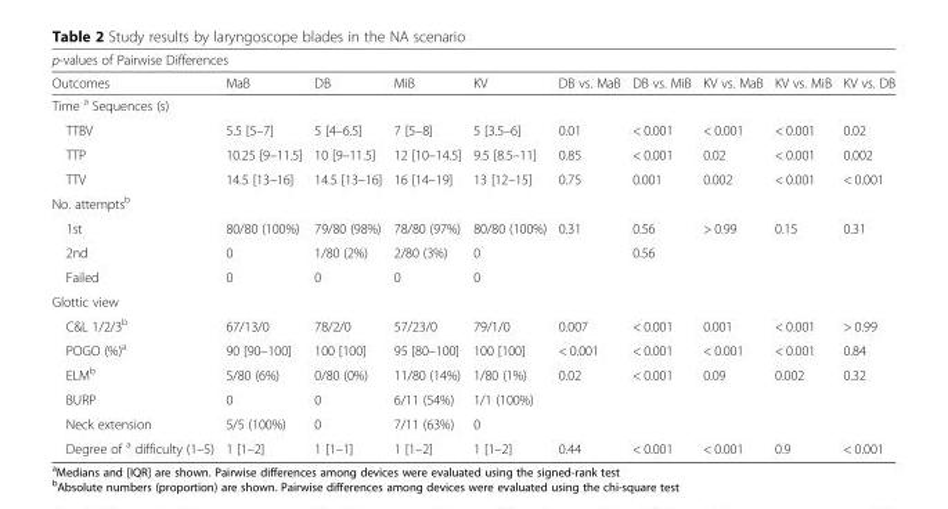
<table><thead><tr><td colspan="10">p-values of Pairwise Differences</td></tr><tr><td>Outcomes</td><td>MaB</td><td>DB</td><td>MiB</td><td>KV</td><td>DB vs. MaB</td><td>DB vs. MiB</td><td>KV vs. MaB</td><td>KV vs. MiB</td><td>KV vs. DB</td></tr></thead><tbody><tr><td colspan="10">Time <sup>a</sup> Sequences (s)</td></tr><tr><td>TTBV</td><td>5.5 [5–7]</td><td>5 [4–6.5]</td><td>7 [5–8]</td><td>5 [3.5–6]</td><td>0.01</td><td>&lt; 0.001</td><td>&lt; 0.001</td><td>&lt; 0.001</td><td>0.02</td></tr><tr><td>TTP</td><td>10.25 [9–11.5]</td><td>10 [9–11.5]</td><td>12 [10–14.5]</td><td>9.5 [8.5–11]</td><td>0.85</td><td>&lt; 0.001</td><td>0.02</td><td>&lt; 0.001</td><td>0.002</td></tr><tr><td>TTV</td><td>14.5 [13–16]</td><td>14.5 [13–16]</td><td>16 [14–19]</td><td>13 [12–15]</td><td>0.75</td><td>0.001</td><td>0.002</td><td>&lt; 0.001</td><td>&lt; 0.001</td></tr><tr><td colspan="10">No. attempts<sup>b</sup></td></tr><tr><td>1st</td><td>80/80 (100%)</td><td>79/80 (98%)</td><td>78/80 (97%)</td><td>80/80 (100%)</td><td>0.31</td><td>0.56</td><td>&gt; 0.99</td><td>0.15</td><td>0.31</td></tr><tr><td>2nd</td><td>0</td><td>1/80 (2%)</td><td>2/80 (3%)</td><td>0</td><td></td><td>0.56</td><td></td><td></td><td></td></tr><tr><td>Failed</td><td>0</td><td>0</td><td>0</td><td>0</td><td></td><td></td><td></td><td></td><td></td></tr><tr><td colspan="10">Glottic view</td></tr><tr><td>C&amp;L 1/2/3<sup>b</sup></td><td>67/13/0</td><td>78/2/0</td><td>57/23/0</td><td>79/1/0</td><td>0.007</td><td>&lt; 0.001</td><td>0.001</td><td>&lt; 0.001</td><td>&gt; 0.99</td></tr><tr><td>POGO (%)<sup>a</sup></td><td>90 [90–100]</td><td>100 [100]</td><td>95 [80–100]</td><td>100 [100]</td><td>&lt; 0.001</td><td>&lt; 0.001</td><td>&lt; 0.001</td><td>&lt; 0.001</td><td>0.84</td></tr><tr><td>ELM<sup>b</sup></td><td>5/80 (6%)</td><td>0/80 (0%)</td><td>11/80 (14%)</td><td>1/80 (1%)</td><td>0.02</td><td>&lt; 0.001</td><td>0.09</td><td>0.002</td><td>0.32</td></tr><tr><td>BURP</td><td>0</td><td>0</td><td>6/11 (54%)</td><td>1/1 (100%)</td><td></td><td></td><td></td><td></td><td></td></tr><tr><td>Neck extension</td><td>5/5 (100%)</td><td>0</td><td>7/11 (63%)</td><td>0</td><td></td><td></td><td></td><td></td><td></td></tr><tr><td>Degree of <sup>a</sup> difficulty (1–5)</td><td>1 [1–2]</td><td>1 [1–1]</td><td>1 [1–2]</td><td>1 [1–2]</td><td>0.44</td><td>&lt; 0.001</td><td>&lt; 0.001</td><td>0.9</td><td>&lt; 0.001</td></tr></tbody></table>